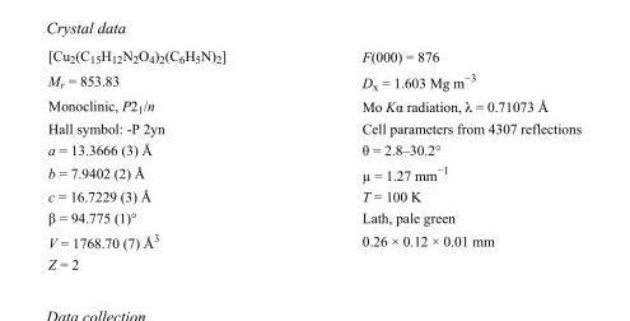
<table><tbody><tr><td>[Cu<sub>2</sub>(C<sub>15</sub>H<sub>12</sub>N<sub>2</sub>O<sub>4</sub>)<sub>2</sub>(C<sub>6</sub>H<sub>5</sub>N)<sub>2</sub>]</td><td>F(000) = 876</td></tr><tr><td>M<sub>r</sub> = 853.83</td><td>D<sub>x</sub> = 1.603 Mg m<sup>−3</sup></td></tr><tr><td>Monoclinic, P2<sub>1</sub>/n</td><td>Mo Kα radiation, λ = 0.71073 Å</td></tr><tr><td>Hall symbol: -P 2yn</td><td>Cell parameters from 4307 reflections</td></tr><tr><td>a = 13.3666 (3) Å</td><td>θ = 2.8–30.2°</td></tr><tr><td>b = 7.9402 (2) Å</td><td>µ = 1.27 mm<sup>−1</sup></td></tr><tr><td>c = 16.7229 (3) Å</td><td>T = 100 K</td></tr><tr><td>β = 94.775 (1)°</td><td>Lath, pale green</td></tr><tr><td>V = 1768.70 (7) Å<sup>3</sup></td><td>0.26 × 0.12 × 0.01 mm</td></tr><tr><td>Z = 2</td><td></td></tr></tbody></table>